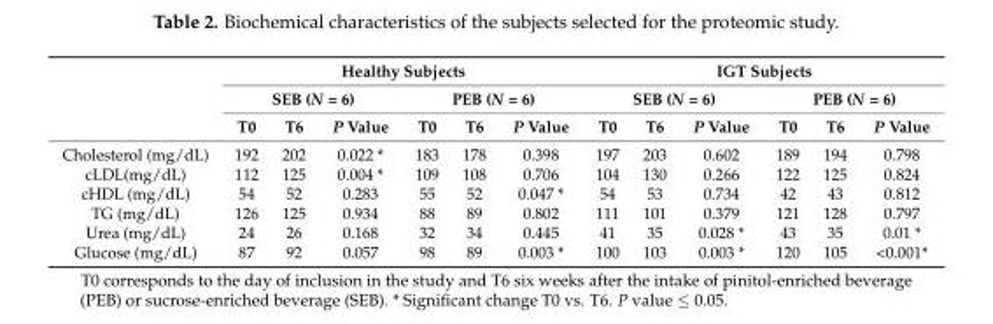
<table><thead><tr><td rowspan="3"></td><td colspan="6">Healthy Subjects</td><td colspan="6">IGT Subjects</td></tr><tr><td colspan="3">SEB (N = 6)</td><td colspan="3">PEB (N = 6)</td><td colspan="3">SEB (N = 6)</td><td colspan="3">PEB (N = 6)</td></tr><tr><td>T0</td><td>T6</td><td>P Value</td><td>T0</td><td>T6</td><td>P Value</td><td>T0</td><td>T6</td><td>P Value</td><td>T0</td><td>T6</td><td>P Value</td></tr></thead><tbody><tr><td>Cholesterol (mg/dL)</td><td>192</td><td>202</td><td>0.022 *</td><td>183</td><td>178</td><td>0.398</td><td>197</td><td>203</td><td>0.602</td><td>189</td><td>194</td><td>0.798</td></tr><tr><td>cLDL(mg/dL)</td><td>112</td><td>125</td><td>0.004 *</td><td>109</td><td>108</td><td>0.706</td><td>104</td><td>130</td><td>0.266</td><td>122</td><td>125</td><td>0.824</td></tr><tr><td>cHDL (mg/dL)</td><td>54</td><td>52</td><td>0.283</td><td>55</td><td>52</td><td>0.047 *</td><td>54</td><td>53</td><td>0.734</td><td>42</td><td>43</td><td>0.812</td></tr><tr><td>TG (mg/dL)</td><td>126</td><td>125</td><td>0.934</td><td>88</td><td>89</td><td>0.802</td><td>111</td><td>101</td><td>0.379</td><td>121</td><td>128</td><td>0.797</td></tr><tr><td>Urea (mg/dL)</td><td>24</td><td>26</td><td>0.168</td><td>32</td><td>34</td><td>0.445</td><td>41</td><td>35</td><td>0.028 *</td><td>43</td><td>35</td><td>0.01 *</td></tr><tr><td>Glucose (mg/dL)</td><td>87</td><td>92</td><td>0.057</td><td>98</td><td>89</td><td>0.003 *</td><td>100</td><td>103</td><td>0.003 *</td><td>120</td><td>105</td><td>&lt;0.001*</td></tr></tbody></table>